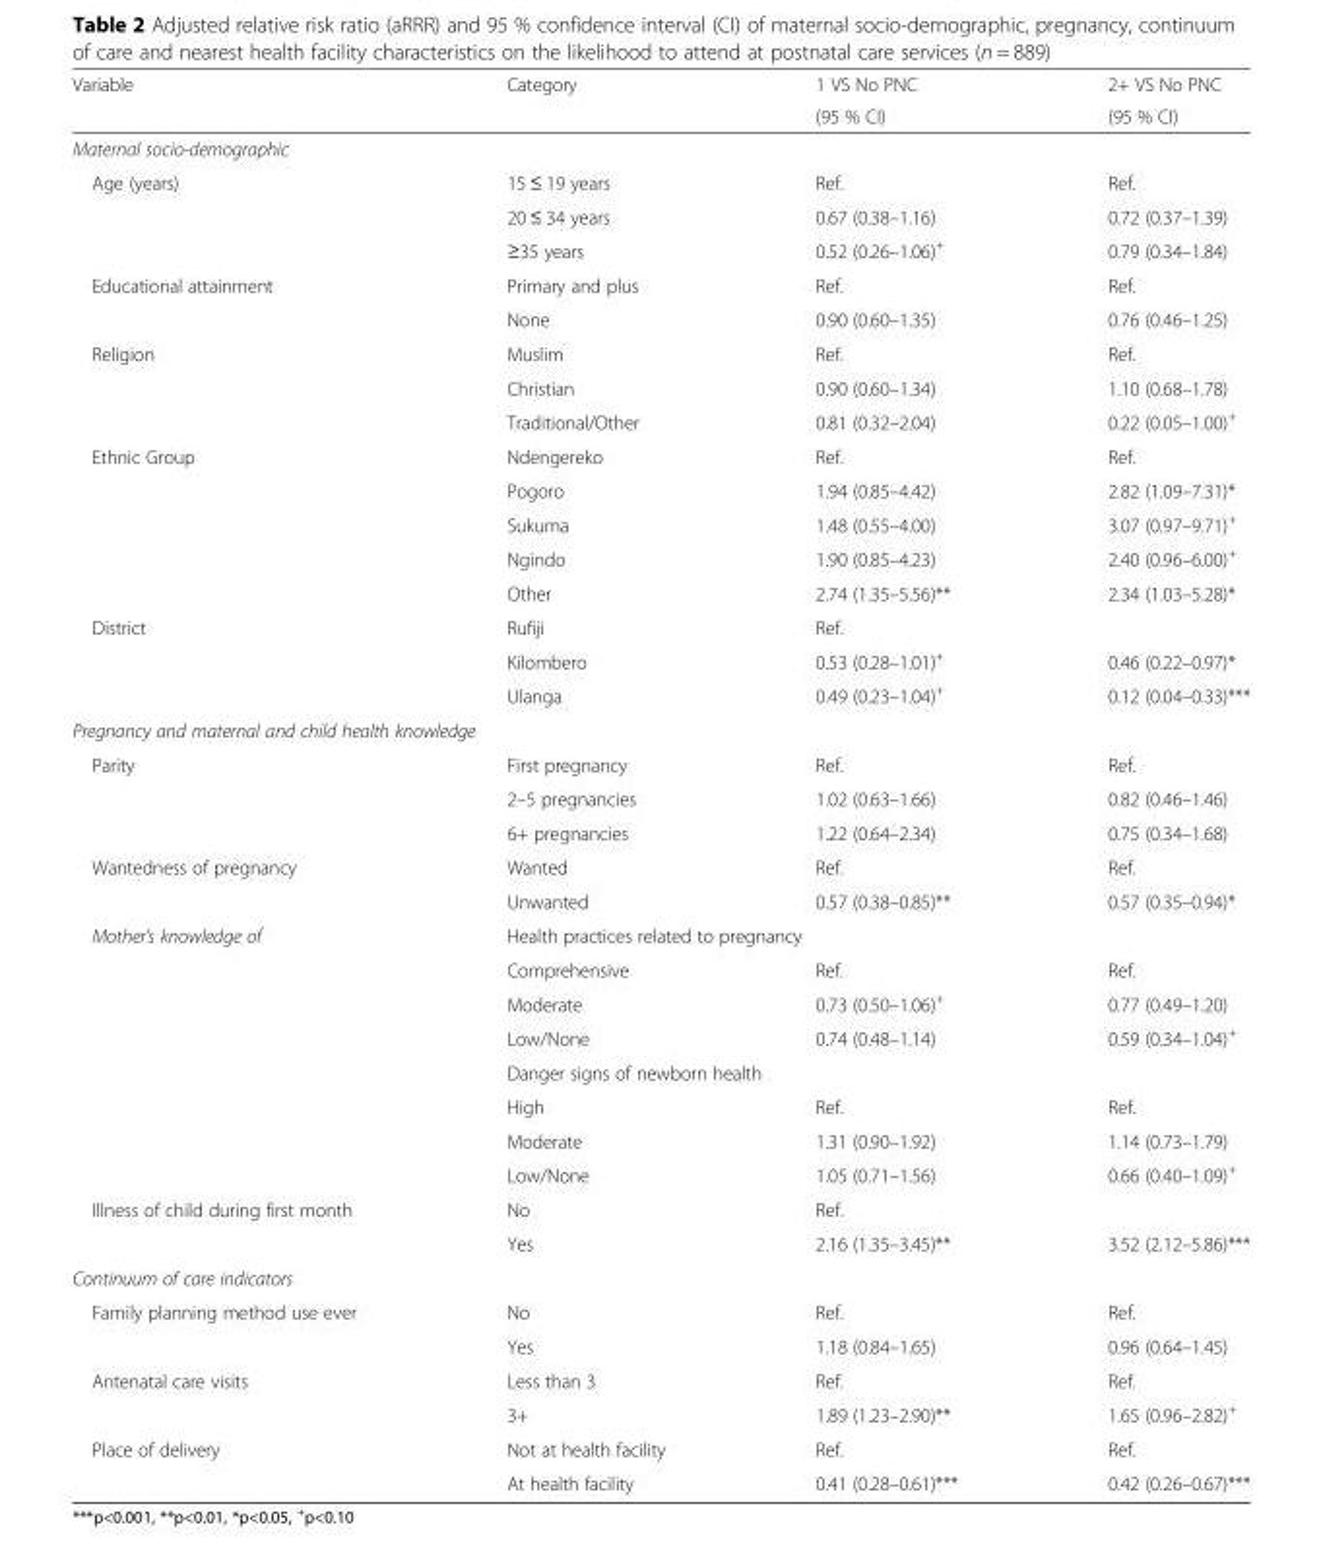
<table><thead><tr><td rowspan="2">Variable</td><td rowspan="2">Category</td><td rowspan="2">1 VS No PNC (95 % CI)</td><td rowspan="2">2+ VS No PNC (95 % CI)</td></tr><tr></tr></thead><tbody><tr><td colspan="4">Maternal socio-demographic</td></tr><tr><td rowspan="3">Age (years)</td><td>15 ≤ 19 years</td><td>Ref.</td><td>Ref.</td></tr><tr><td>20 ≤ 34 years</td><td>0.67 (0.38–1.16)</td><td>0.72 (0.37–1.39)</td></tr><tr><td>≥35 years</td><td>0.52 (0.26–1.06)<sup>+</sup></td><td>0.79 (0.34–1.84)</td></tr><tr><td rowspan="2">Educational attainment</td><td>Primary and plus</td><td>Ref.</td><td>Ref.</td></tr><tr><td>None</td><td>0.90 (0.60–1.35)</td><td>0.76 (0.46–1.25)</td></tr><tr><td rowspan="3">Religion</td><td>Muslim</td><td>Ref.</td><td>Ref.</td></tr><tr><td>Christian</td><td>0.90 (0.60–1.34)</td><td>1.10 (0.68–1.78)</td></tr><tr><td>Traditional/Other</td><td>0.81 (0.32–2.04)</td><td>0.22 (0.05–1.00)<sup>+</sup></td></tr><tr><td rowspan="5">Ethnic Group</td><td>Ndengereko</td><td>Ref.</td><td>Ref.</td></tr><tr><td>Pogoro</td><td>1.94 (0.85–4.42)</td><td>2.82 (1.09–7.31)*</td></tr><tr><td>Sukuma</td><td>1.48 (0.55–4.00)</td><td>3.07 (0.97–9.71)<sup>+</sup></td></tr><tr><td>Ngindo</td><td>1.90 (0.85–4.23)</td><td>2.40 (0.96–6.00)<sup>+</sup></td></tr><tr><td>Other</td><td>2.74 (1.35–5.56)**</td><td>2.34 (1.03–5.28)*</td></tr><tr><td rowspan="3">District</td><td>Rufiji</td><td>Ref.</td><td></td></tr><tr><td>Kilombero</td><td>0.53 (0.28–1.01)<sup>+</sup></td><td>0.46 (0.22–0.97)*</td></tr><tr><td>Ulanga</td><td>0.49 (0.23–1.04)<sup>+</sup></td><td>0.12 (0.04–0.33)***</td></tr><tr><td colspan="4">Pregnancy and maternal and child health knowledge</td></tr><tr><td rowspan="3">Parity</td><td>First pregnancy</td><td>Ref.</td><td>Ref.</td></tr><tr><td>2–5 pregnancies</td><td>1.02 (0.63–1.66)</td><td>0.82 (0.46–1.46)</td></tr><tr><td>6+ pregnancies</td><td>1.22 (0.64–2.34)</td><td>0.75 (0.34–1.68)</td></tr><tr><td rowspan="2">Wantedness of pregnancy</td><td>Wanted</td><td>Ref.</td><td>Ref.</td></tr><tr><td>Unwanted</td><td>0.57 (0.38–0.85)**</td><td>0.57 (0.35–0.94)*</td></tr><tr><td rowspan="8">Mother’s knowledge of</td><td colspan="2">Health practices related to pregnancy</td><td></td></tr><tr><td>Comprehensive</td><td>Ref.</td><td>Ref.</td></tr><tr><td>Moderate</td><td>0.73 (0.50–1.06)<sup>+</sup></td><td>0.77 (0.49–1.20)</td></tr><tr><td>Low/None</td><td>0.74 (0.48–1.14)</td><td>0.59 (0.34–1.04)<sup>+</sup></td></tr><tr><td colspan="2">Danger signs of newborn health</td><td></td></tr><tr><td>High</td><td>Ref.</td><td>Ref.</td></tr><tr><td>Moderate</td><td>1.31 (0.90–1.92)</td><td>1.14 (0.73–1.79)</td></tr><tr><td>Low/None</td><td>1.05 (0.71–1.56)</td><td>0.66 (0.40–1.09)<sup>+</sup></td></tr><tr><td rowspan="2">Illness of child during first month</td><td>No</td><td>Ref.</td><td></td></tr><tr><td>Yes</td><td>2.16 (1.35–3.45)**</td><td>3.52 (2.12–5.86)***</td></tr><tr><td colspan="4">Continuum of care indicators</td></tr><tr><td rowspan="2">Family planning method use ever</td><td>No</td><td>Ref.</td><td>Ref.</td></tr><tr><td>Yes</td><td>1.18 (0.84–1.65)</td><td>0.96 (0.64–1.45)</td></tr><tr><td rowspan="2">Antenatal care visits</td><td>Less than 3</td><td>Ref.</td><td>Ref.</td></tr><tr><td>3+</td><td>1.89 (1.23–2.90)**</td><td>1.65 (0.96–2.82)<sup>+</sup></td></tr><tr><td rowspan="2">Place of delivery</td><td>Not at health facility</td><td>Ref.</td><td>Ref.</td></tr><tr><td>At health facility</td><td>0.41 (0.28–0.61)***</td><td>0.42 (0.26–0.67)***</td></tr></tbody></table>